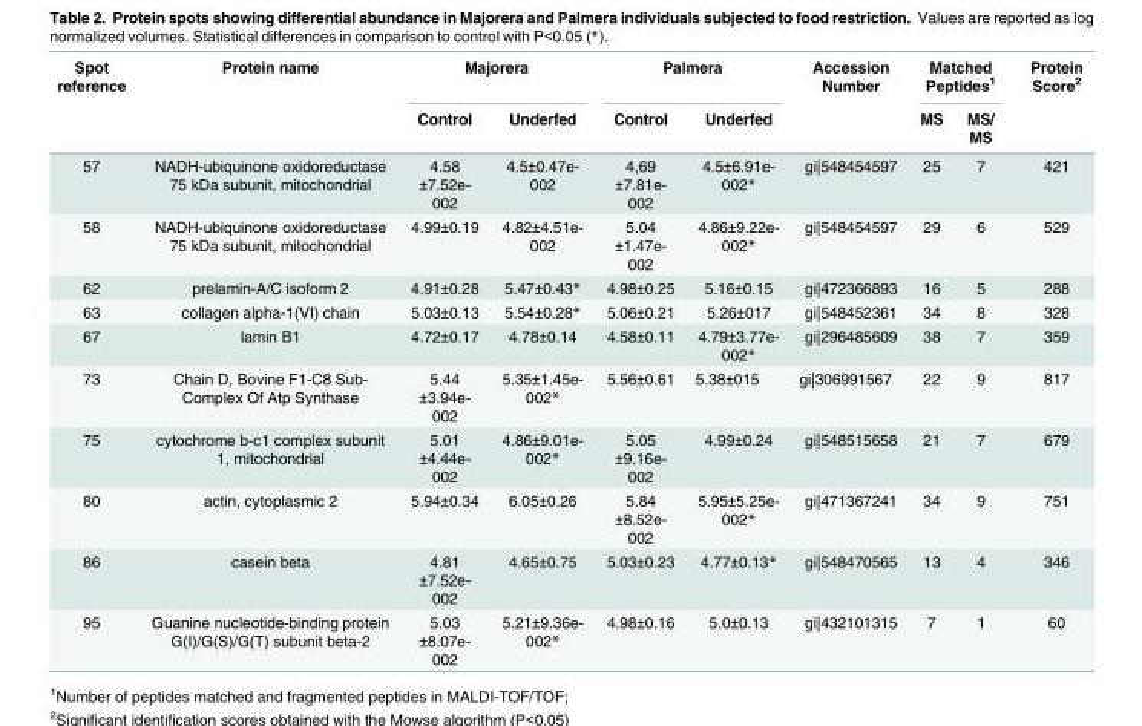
<table><thead><tr><td rowspan="2">Spot reference</td><td rowspan="2">Protein name</td><td colspan="2">Majorera</td><td colspan="2">Palmera</td><td rowspan="2">Accession Number</td><td colspan="2">Matched Peptides<sup>1</sup></td><td rowspan="2">Protein Score<sup>2</sup></td></tr><tr><td>Control</td><td>Underfed</td><td>Control</td><td>Underfed</td><td>MS</td><td>MS/ MS</td></tr></thead><tbody><tr><td>57</td><td>NADH-ubiquinone oxidoreductase 75 kDa subunit, mitochondrial</td><td>4.58 ±7.52e- 002</td><td>4.5±0.47e- 002</td><td>4,69 ±7.81e- 002</td><td>4.5±6.91e- 002*</td><td>gi|548454597</td><td>25</td><td>7</td><td>421</td></tr><tr><td>58</td><td>NADH-ubiquinone oxidoreductase 75 kDa subunit, mitochondrial</td><td>4.99±0.19</td><td>4.82±4.51e- 002</td><td>5.04 ±1.47e- 002</td><td>4.86±9.22e- 002*</td><td>gi|548454597</td><td>29</td><td>6</td><td>529</td></tr><tr><td>62</td><td>prelamin-A/C isoform 2</td><td>4.91±0.28</td><td>5.47±0.43*</td><td>4.98±0.25</td><td>5.16±0.15</td><td>gi|472366893</td><td>16</td><td>5</td><td>288</td></tr><tr><td>63</td><td>collagen alpha-1(VI) chain</td><td>5.03±0.13</td><td>5.54±0.28*</td><td>5.06±0.21</td><td>5.26±017</td><td>gi|548452361</td><td>34</td><td>8</td><td>328</td></tr><tr><td>67</td><td>lamin B1</td><td>4.72±0.17</td><td>4.78±0.14</td><td>4.58±0.11</td><td>4.79±3.77e- 002*</td><td>gi|296485609</td><td>38</td><td>7</td><td>359</td></tr><tr><td>73</td><td>Chain D, Bovine F1-C8 Sub- Complex Of Atp Synthase</td><td>5.44 ±3.94e- 002</td><td>5.35±1.45e- 002*</td><td>5.56±0.61</td><td>5.38±015</td><td>gi|306991567</td><td>22</td><td>9</td><td>817</td></tr><tr><td>75</td><td>cytochrome b-c1 complex subunit 1, mitochondrial</td><td>5.01 ±4.44e- 002</td><td>4.86±9.01e- 002*</td><td>5.05 ±9.16e- 002</td><td>4.99±0.24</td><td>gi|548515658</td><td>21</td><td>7</td><td>679</td></tr><tr><td>80</td><td>actin, cytoplasmic 2</td><td>5.94±0.34</td><td>6.05±0.26</td><td>5.84 ±8.52e- 002</td><td>5.95±5.25e- 002*</td><td>gi|471367241</td><td>34</td><td>9</td><td>751</td></tr><tr><td>86</td><td>casein beta</td><td>4.81 ±7.52e- 002</td><td>4.65±0.75</td><td>5.03±0.23</td><td>4.77±0.13*</td><td>gi|548470565</td><td>13</td><td>4</td><td>346</td></tr><tr><td>95</td><td>Guanine nucleotide-binding protein G(I)/G(S)/G(T) subunit beta-2</td><td>5.03 ±8.07e- 002</td><td>5.21±9.36e- 002*</td><td>4.98±0.16</td><td>5.0±0.13</td><td>gi|432101315</td><td>7</td><td>1</td><td>60</td></tr></tbody></table>